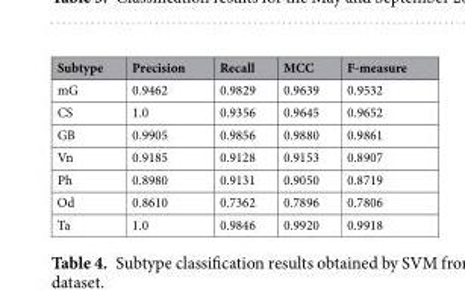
<table><thead><tr><td>Subtype</td><td>Precision</td><td>Recall</td><td>MCC</td><td>F-measure</td></tr></thead><tbody><tr><td>mG</td><td>0.9462</td><td>0.9829</td><td>0.9639</td><td>0.9532</td></tr><tr><td>CS</td><td>1.0</td><td>0.9356</td><td>0.9645</td><td>0.9652</td></tr><tr><td>GB</td><td>0.9905</td><td>0.9856</td><td>0.9880</td><td>0.9861</td></tr><tr><td>Vn</td><td>0.9185</td><td>0.9128</td><td>0.9153</td><td>0.8907</td></tr><tr><td>Ph</td><td>0.8980</td><td>0.9131</td><td>0.9050</td><td>0.8719</td></tr><tr><td>Od</td><td>0.8610</td><td>0.7362</td><td>0.7896</td><td>0.7806</td></tr><tr><td>Ta</td><td>1.0</td><td>0.9846</td><td>0.9920</td><td>0.9918</td></tr></tbody></table>